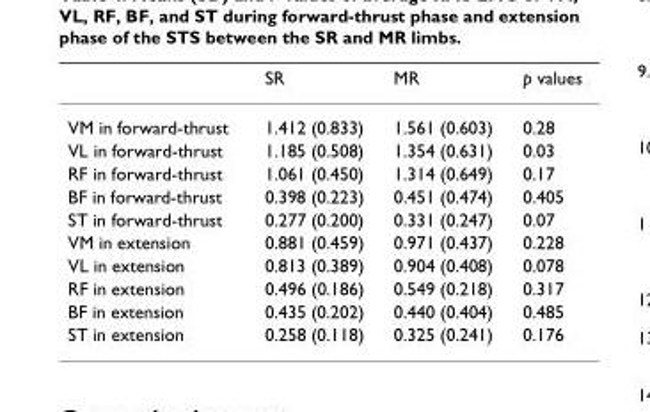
<table><thead><tr><td></td><td>SR</td><td>MR</td><td>p values</td></tr></thead><tbody><tr><td>VM in forward-thrust</td><td>1.412 (0.833)</td><td>1.561 (0.603)</td><td>0.28</td></tr><tr><td>VL in forward-thrust</td><td>1.185 (0.508)</td><td>1.354 (0.631)</td><td>0.03</td></tr><tr><td>RF in forward-thrust</td><td>1.061 (0.450)</td><td>1.314 (0.649)</td><td>0.17</td></tr><tr><td>BF in forward-thrust</td><td>0.398 (0.223)</td><td>0.451 (0.474)</td><td>0.405</td></tr><tr><td>ST in forward-thrust</td><td>0.277 (0.200)</td><td>0.331 (0.247)</td><td>0.07</td></tr><tr><td>VM in extension</td><td>0.881 (0.459)</td><td>0.971 (0.437)</td><td>0.228</td></tr><tr><td>VL in extension</td><td>0.813 (0.389)</td><td>0.904 (0.408)</td><td>0.078</td></tr><tr><td>RF in extension</td><td>0.496 (0.186)</td><td>0.549 (0.218)</td><td>0.317</td></tr><tr><td>BF in extension</td><td>0.435 (0.202)</td><td>0.440 (0.404)</td><td>0.485</td></tr><tr><td>ST in extension</td><td>0.258 (0.118)</td><td>0.325 (0.241)</td><td>0.176</td></tr></tbody></table>